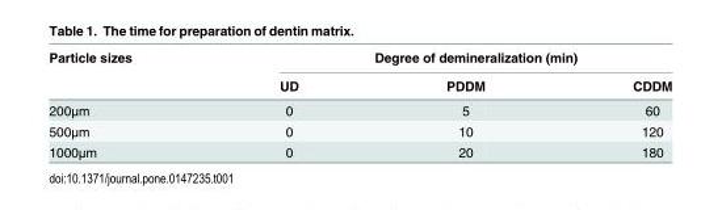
<table><thead><tr><td rowspan="2">Particle sizes</td><td colspan="3">Degree of demineralization (min)</td></tr><tr><td>UD</td><td>PDDM</td><td>CDDM</td></tr></thead><tbody><tr><td>200μm</td><td>0</td><td>5</td><td>60</td></tr><tr><td>500μm</td><td>0</td><td>10</td><td>120</td></tr><tr><td>1000μm</td><td>0</td><td>20</td><td>180</td></tr></tbody></table>